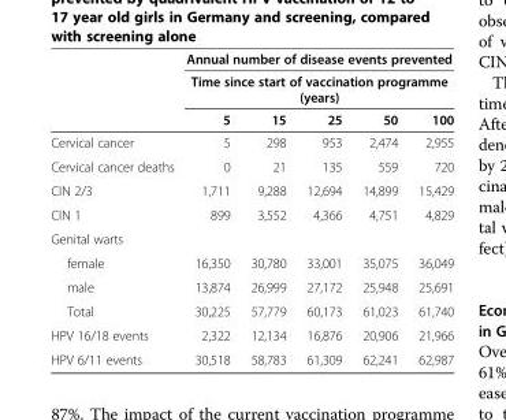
<table><thead><tr><td rowspan="3"></td><td rowspan="2" colspan="5">Annual number of disease events prevented Time since start of vaccination programme (years)</td></tr><tr></tr><tr><td>5</td><td>15</td><td>25</td><td>50</td><td>100</td></tr></thead><tbody><tr><td>Cervical cancer</td><td>5</td><td>298</td><td>953</td><td>2,474</td><td>2,955</td></tr><tr><td>Cervical cancer deaths</td><td>0</td><td>21</td><td>135</td><td>559</td><td>720</td></tr><tr><td>CIN 2/3</td><td>1,711</td><td>9,288</td><td>12,694</td><td>14,899</td><td>15,429</td></tr><tr><td>CIN 1</td><td>899</td><td>3,552</td><td>4,366</td><td>4,751</td><td>4,829</td></tr><tr><td colspan="6">Genital warts</td></tr><tr><td>female</td><td>16,350</td><td>30,780</td><td>33,001</td><td>35,075</td><td>36,049</td></tr><tr><td>male</td><td>13,874</td><td>26,999</td><td>27,172</td><td>25,948</td><td>25,691</td></tr><tr><td>Total</td><td>30,225</td><td>57,779</td><td>60,173</td><td>61,023</td><td>61,740</td></tr><tr><td>HPV 16/18 events</td><td>2,322</td><td>12,134</td><td>16,876</td><td>20,906</td><td>21,966</td></tr><tr><td>HPV 6/11 events</td><td>30,518</td><td>58,783</td><td>61,309</td><td>62,241</td><td>62,987</td></tr></tbody></table>